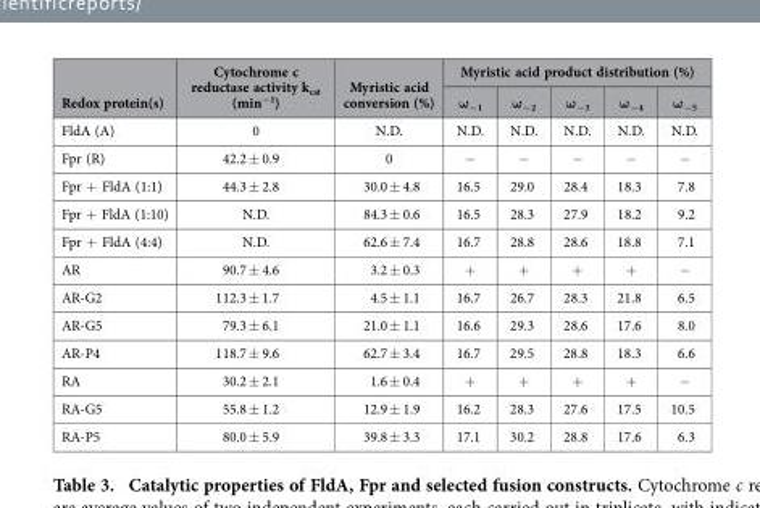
<table><thead><tr><td rowspan="2">Redox protein(s)</td><td rowspan="2">Cytochrome c reductase activity k<sub>cat</sub> (min<sup>−1</sup>)</td><td rowspan="2">Myristic acid conversion (%)</td><td colspan="5">Myristic acid product distribution (%)</td></tr><tr><td>ω <sub>−1</sub></td><td>ω <sub>−2</sub></td><td>ω <sub>−3</sub></td><td>ω <sub>−4</sub></td><td>ω <sub>−5</sub></td></tr></thead><tbody><tr><td>FldA (A)</td><td>0</td><td>N.D.</td><td>N.D.</td><td>N.D.</td><td>N.D.</td><td>N.D.</td><td>N.D.</td></tr><tr><td>Fpr (R)</td><td>42.2 ± 0.9</td><td>0</td><td>−</td><td>−</td><td>−</td><td>−</td><td>−</td></tr><tr><td>Fpr + FldA (1:1)</td><td>44.3 ± 2.8</td><td>30.0 ± 4.8</td><td>16.5</td><td>29.0</td><td>28.4</td><td>18.3</td><td>7.8</td></tr><tr><td>Fpr + FldA (1:10)</td><td>N.D.</td><td>84.3 ± 0.6</td><td>16.5</td><td>28.3</td><td>27.9</td><td>18.2</td><td>9.2</td></tr><tr><td>Fpr + FldA (4:4)</td><td>N.D.</td><td>62.6 ± 7.4</td><td>16.7</td><td>28.8</td><td>28.6</td><td>18.8</td><td>7.1</td></tr><tr><td>AR</td><td>90.7 ± 4.6</td><td>3.2 ± 0.3</td><td>+</td><td>+</td><td>+</td><td>+</td><td>−</td></tr><tr><td>AR-G2</td><td>112.3 ± 1.7</td><td>4.5 ± 1.1</td><td>16.7</td><td>26.7</td><td>28.3</td><td>21.8</td><td>6.5</td></tr><tr><td>AR-G5</td><td>79.3 ± 6.1</td><td>21.0 ± 1.1</td><td>16.6</td><td>29.3</td><td>28.6</td><td>17.6</td><td>8.0</td></tr><tr><td>AR-P4</td><td>118.7 ± 9.6</td><td>62.7 ± 3.4</td><td>16.7</td><td>29.5</td><td>28.8</td><td>18.3</td><td>6.6</td></tr><tr><td>RA</td><td>30.2 ± 2.1</td><td>1.6 ± 0.4</td><td>+</td><td>+</td><td>+</td><td>+</td><td>−</td></tr><tr><td>RA-G5</td><td>55.8 ± 1.2</td><td>12.9 ± 1.9</td><td>16.2</td><td>28.3</td><td>27.6</td><td>17.5</td><td>10.5</td></tr><tr><td>RA-P5</td><td>80.0 ± 5.9</td><td>39.8 ± 3.3</td><td>17.1</td><td>30.2</td><td>28.8</td><td>17.6</td><td>6.3</td></tr></tbody></table>